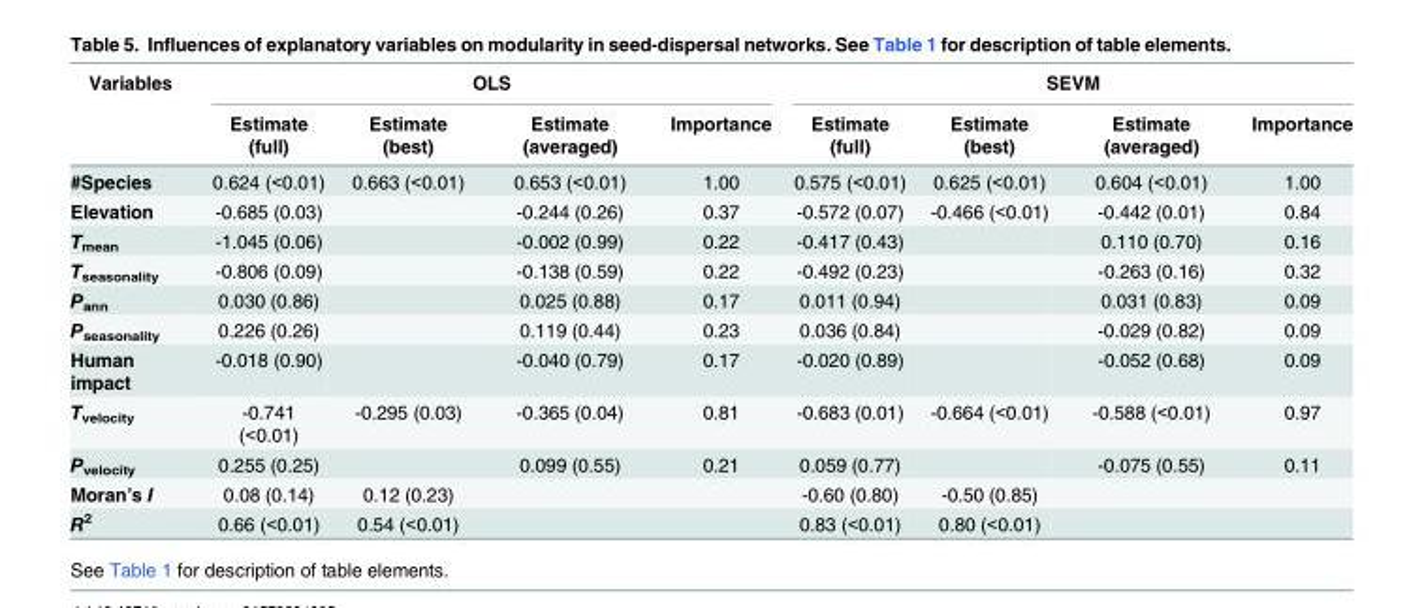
<table><thead><tr><td rowspan="2">Variables</td><td colspan="4">OLS</td><td colspan="4">SEVM</td></tr><tr><td>Estimate (full)</td><td>Estimate (best)</td><td>Estimate (averaged)</td><td>Importance</td><td>Estimate (full)</td><td>Estimate (best)</td><td>Estimate (averaged)</td><td>Importance</td></tr></thead><tbody><tr><td>#Species</td><td>0.624 (&lt;0.01)</td><td>0.663 (&lt;0.01)</td><td>0.653 (&lt;0.01)</td><td>1.00</td><td>0.575 (&lt;0.01)</td><td>0.625 (&lt;0.01)</td><td>0.604 (&lt;0.01)</td><td>1.00</td></tr><tr><td>Elevation</td><td>-0.685 (0.03)</td><td></td><td>-0.244 (0.26)</td><td>0.37</td><td>-0.572 (0.07)</td><td>-0.466 (&lt;0.01)</td><td>-0.442 (0.01)</td><td>0.84</td></tr><tr><td>T<sub>mean</sub></td><td>-1.045 (0.06)</td><td></td><td>-0.002 (0.99)</td><td>0.22</td><td>-0.417 (0.43)</td><td></td><td>0.110 (0.70)</td><td>0.16</td></tr><tr><td>T<sub>seasonality</sub></td><td>-0.806 (0.09)</td><td></td><td>-0.138 (0.59)</td><td>0.22</td><td>-0.492 (0.23)</td><td></td><td>-0.263 (0.16)</td><td>0.32</td></tr><tr><td>P<sub>ann</sub></td><td>0.030 (0.86)</td><td></td><td>0.025 (0.88)</td><td>0.17</td><td>0.011 (0.94)</td><td></td><td>0.031 (0.83)</td><td>0.09</td></tr><tr><td>P<sub>seasonality</sub></td><td>0.226 (0.26)</td><td></td><td>0.119 (0.44)</td><td>0.23</td><td>0.036 (0.84)</td><td></td><td>-0.029 (0.82)</td><td>0.09</td></tr><tr><td>Human impact</td><td>-0.018 (0.90)</td><td></td><td>-0.040 (0.79)</td><td>0.17</td><td>-0.020 (0.89)</td><td></td><td>-0.052 (0.68)</td><td>0.09</td></tr><tr><td>T<sub>velocity</sub></td><td>-0.741 (&lt;0.01)</td><td>-0.295 (0.03)</td><td>-0.365 (0.04)</td><td>0.81</td><td>-0.683 (0.01)</td><td>-0.664 (&lt;0.01)</td><td>-0.588 (&lt;0.01)</td><td>0.97</td></tr><tr><td>P<sub>velocity</sub></td><td>0.255 (0.25)</td><td></td><td>0.099 (0.55)</td><td>0.21</td><td>0.059 (0.77)</td><td></td><td>-0.075 (0.55)</td><td>0.11</td></tr><tr><td>Moran’s I</td><td>0.08 (0.14)</td><td>0.12 (0.23)</td><td></td><td></td><td>-0.60 (0.80)</td><td>-0.50 (0.85)</td><td></td><td></td></tr><tr><td>R<sup>2</sup></td><td>0.66 (&lt;0.01)</td><td>0.54 (&lt;0.01)</td><td></td><td></td><td>0.83 (&lt;0.01)</td><td>0.80 (&lt;0.01)</td><td></td><td></td></tr></tbody></table>